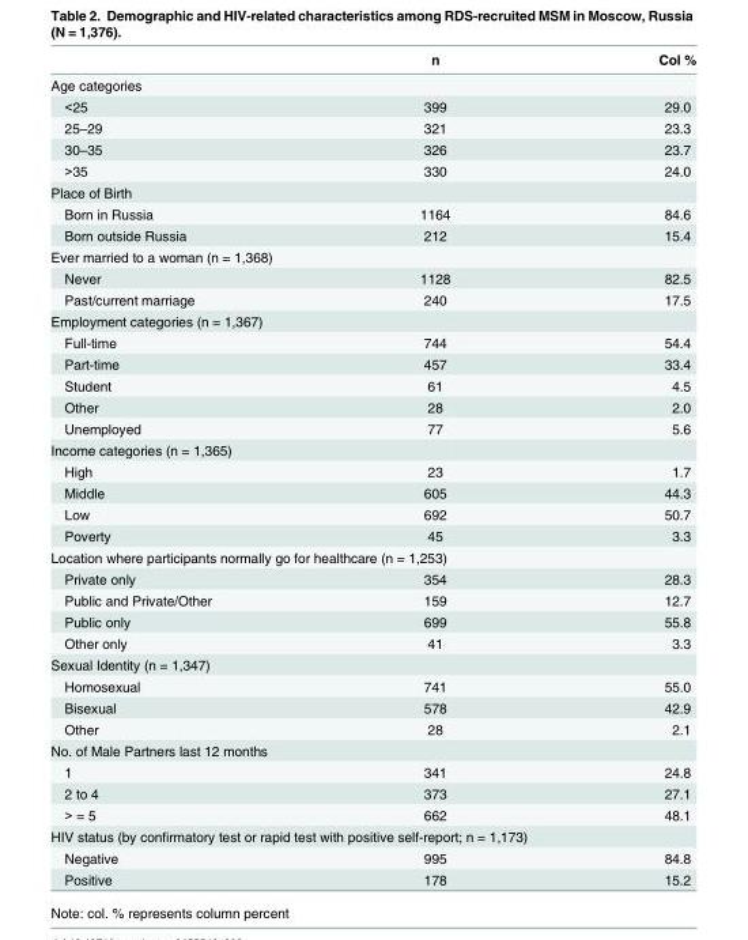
<table><thead><tr><td></td><td>n</td><td>Col %</td></tr></thead><tbody><tr><td colspan="3">Age categories</td></tr><tr><td>&lt;25</td><td>399</td><td>29.0</td></tr><tr><td>25–29</td><td>321</td><td>23.3</td></tr><tr><td>30–35</td><td>326</td><td>23.7</td></tr><tr><td>&gt;35</td><td>330</td><td>24.0</td></tr><tr><td colspan="3">Place of Birth</td></tr><tr><td>Born in Russia</td><td>1164</td><td>84.6</td></tr><tr><td>Born outside Russia</td><td>212</td><td>15.4</td></tr><tr><td colspan="3">Ever married to a woman (n = 1,368)</td></tr><tr><td>Never</td><td>1128</td><td>82.5</td></tr><tr><td>Past/current marriage</td><td>240</td><td>17.5</td></tr><tr><td colspan="3">Employment categories (n = 1,367)</td></tr><tr><td>Full-time</td><td>744</td><td>54.4</td></tr><tr><td>Part-time</td><td>457</td><td>33.4</td></tr><tr><td>Student</td><td>61</td><td>4.5</td></tr><tr><td>Other</td><td>28</td><td>2.0</td></tr><tr><td>Unemployed</td><td>77</td><td>5.6</td></tr><tr><td colspan="3">Income categories (n = 1,365)</td></tr><tr><td>High</td><td>23</td><td>1.7</td></tr><tr><td>Middle</td><td>605</td><td>44.3</td></tr><tr><td>Low</td><td>692</td><td>50.7</td></tr><tr><td>Poverty</td><td>45</td><td>3.3</td></tr><tr><td colspan="3">Location where participants normally go for healthcare (n = 1,253)</td></tr><tr><td>Private only</td><td>354</td><td>28.3</td></tr><tr><td>Public and Private/Other</td><td>159</td><td>12.7</td></tr><tr><td>Public only</td><td>699</td><td>55.8</td></tr><tr><td>Other only</td><td>41</td><td>3.3</td></tr><tr><td colspan="3">Sexual Identity (n = 1,347)</td></tr><tr><td>Homosexual</td><td>741</td><td>55.0</td></tr><tr><td>Bisexual</td><td>578</td><td>42.9</td></tr><tr><td>Other</td><td>28</td><td>2.1</td></tr><tr><td colspan="3">No. of Male Partners last 12 months</td></tr><tr><td>1</td><td>341</td><td>24.8</td></tr><tr><td>2 to 4</td><td>373</td><td>27.1</td></tr><tr><td>&gt; = 5</td><td>662</td><td>48.1</td></tr><tr><td colspan="3">HIV status (by confirmatory test or rapid test with positive self-report; n = 1,173)</td></tr><tr><td>Negative</td><td>995</td><td>84.8</td></tr><tr><td>Positive</td><td>178</td><td>15.2</td></tr></tbody></table>